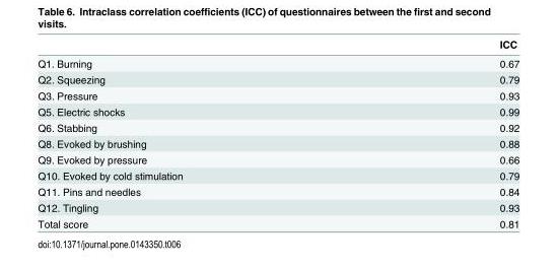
<table><thead><tr><td></td><td>ICC</td></tr></thead><tbody><tr><td>Q1. Burning</td><td>0.67</td></tr><tr><td>Q2. Squeezing</td><td>0.79</td></tr><tr><td>Q3. Pressure</td><td>0.93</td></tr><tr><td>Q5. Electric shocks</td><td>0.99</td></tr><tr><td>Q6. Stabbing</td><td>0.92</td></tr><tr><td>Q8. Evoked by brushing</td><td>0.88</td></tr><tr><td>Q9. Evoked by pressure</td><td>0.66</td></tr><tr><td>Q10. Evoked by cold stimulation</td><td>0.79</td></tr><tr><td>Q11. Pins and needles</td><td>0.84</td></tr><tr><td>Q12. Tingling</td><td>0.93</td></tr><tr><td>Total score</td><td>0.81</td></tr></tbody></table>